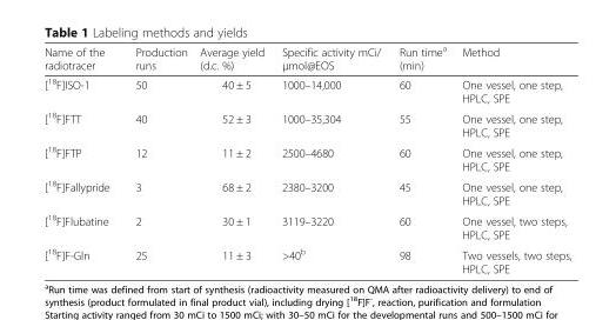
<table><thead><tr><td>Name of the radiotracer</td><td>Production runs</td><td>Average yield (d.c. %)</td><td>Specific activity mCi/ μmol@EOS</td><td>Run time<sup>a</sup> (min)</td><td>Method</td></tr></thead><tbody><tr><td>[<sup>18</sup>F]ISO-1</td><td>50</td><td>40 ± 5</td><td>1000–14,000</td><td>60</td><td>One vessel, one step, HPLC, SPE</td></tr><tr><td>[<sup>18</sup>F]FTT</td><td>40</td><td>52 ± 3</td><td>1000–35,304</td><td>55</td><td>One vessel, one step, HPLC, SPE</td></tr><tr><td>[<sup>18</sup>F]FTP</td><td>12</td><td>11 ± 2</td><td>2500–4680</td><td>60</td><td>One vessel, one step, HPLC, SPE</td></tr><tr><td>[<sup>18</sup>F]Fallypride</td><td>3</td><td>68 ± 2</td><td>2380–3200</td><td>45</td><td>One vessel, one step, HPLC, SPE</td></tr><tr><td>[<sup>18</sup>F]Flubatine</td><td>2</td><td>30 ± 1</td><td>3119–3220</td><td>60</td><td>One vessel, two steps, HPLC, SPE</td></tr><tr><td>[<sup>18</sup>F]F-Gln</td><td>25</td><td>11 ± 3</td><td>&gt;40<sup>b</sup></td><td>98</td><td>Two vessels, two steps, HPLC, SPE</td></tr></tbody></table>